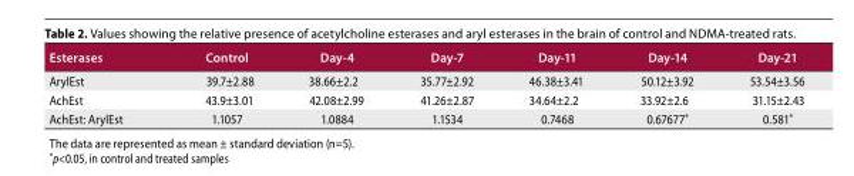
<table><thead><tr><td>Esterases</td><td>Control</td><td>Day-4</td><td>Day-7</td><td>Day-11</td><td>Day-14</td><td>Day-21</td></tr></thead><tbody><tr><td>ArylEst</td><td>39.7±2.88</td><td>38.66±2.2</td><td>35.77±2.92</td><td>46.38±3.41</td><td>50.12±3.92</td><td>53.54±3.56</td></tr><tr><td>AchEst</td><td>43.9±3.01</td><td>42.08±2.99</td><td>41.26±2.87</td><td>34.64±2.2</td><td>33.92±2.6</td><td>31.15±2.43</td></tr><tr><td>AchEst: ArylEst</td><td>1.1057</td><td>1.0884</td><td>1.1534</td><td>0.7468</td><td>0.67677*</td><td>0.581*</td></tr></tbody></table>